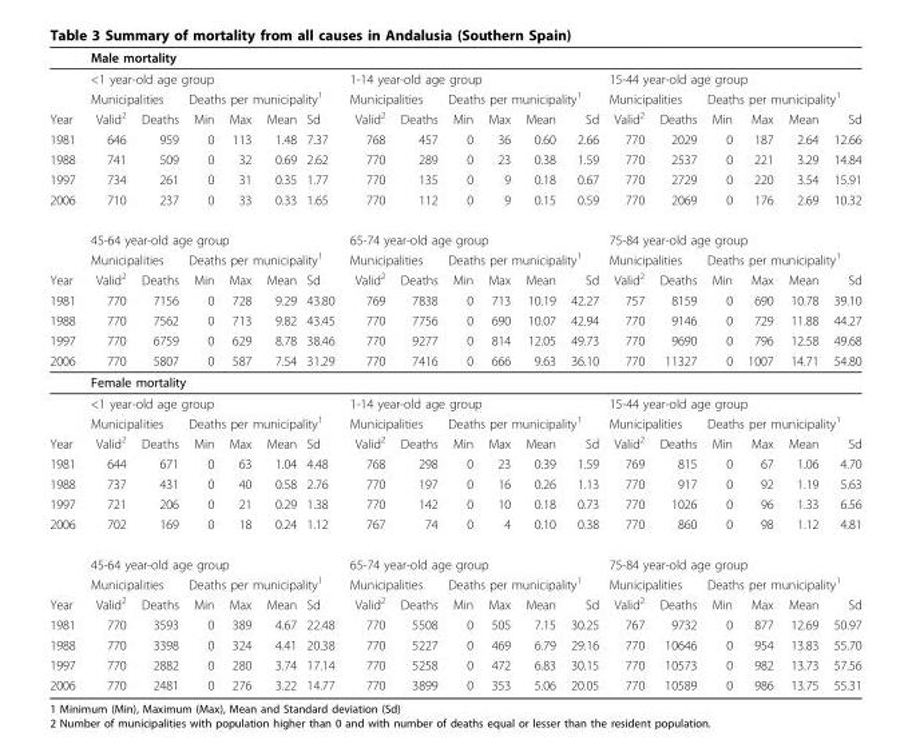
<table><thead><tr><td rowspan="4">Year</td><td colspan="18">Male mortality</td></tr><tr><td colspan="6">&lt;1 year-old age group</td><td colspan="6">1-14 year-old age group</td><td colspan="6">15-44 year-old age group</td></tr><tr><td colspan="2">Municipalities</td><td colspan="4">Deaths per municipality<sup>1</sup></td><td colspan="2">Municipalities</td><td colspan="4">Deaths per municipality<sup>1</sup></td><td colspan="2">Municipalities</td><td colspan="4">Deaths per municipality<sup>1</sup></td></tr><tr><td>Valid<sup>2</sup></td><td>Deaths</td><td>Min</td><td>Max</td><td>Mean</td><td>Sd</td><td>Valid<sup>2</sup></td><td>Deaths</td><td>Min</td><td>Max</td><td>Mean</td><td>Sd</td><td>Valid<sup>2</sup></td><td>Deaths</td><td>Min</td><td>Max</td><td>Mean</td><td>Sd</td></tr></thead><tbody><tr><td>1981</td><td>646</td><td>959</td><td>0</td><td>113</td><td>1.48</td><td>7.37</td><td>768</td><td>457</td><td>0</td><td>36</td><td>0.60</td><td>2.66</td><td>770</td><td>2029</td><td>0</td><td>187</td><td>2.64</td><td>12.66</td></tr><tr><td>1988</td><td>741</td><td>509</td><td>0</td><td>32</td><td>0.69</td><td>2.62</td><td>770</td><td>289</td><td>0</td><td>23</td><td>0.38</td><td>1.59</td><td>770</td><td>2537</td><td>0</td><td>221</td><td>3.29</td><td>14.84</td></tr><tr><td>1997</td><td>734</td><td>261</td><td>0</td><td>31</td><td>0.35</td><td>1.77</td><td>770</td><td>135</td><td>0</td><td>9</td><td>0.18</td><td>0.67</td><td>770</td><td>2729</td><td>0</td><td>220</td><td>3.54</td><td>15.91</td></tr><tr><td rowspan="3">2006</td><td>710</td><td>237</td><td>0</td><td>33</td><td>0.33</td><td>1.65</td><td>770</td><td>112</td><td>0</td><td>9</td><td>0.15</td><td>0.59</td><td>770</td><td>2069</td><td>0</td><td>176</td><td>2.69</td><td>10.32</td></tr><tr><td colspan="6">45-64 year-old age group</td><td colspan="6">65-74 year-old age group</td><td colspan="6">75-84 year-old age group</td></tr><tr><td colspan="2">Municipalities</td><td colspan="4">Deaths per municipality<sup>1</sup></td><td colspan="2">Municipalities</td><td colspan="4">Deaths per municipality<sup>1</sup></td><td colspan="2">Municipalities</td><td colspan="4">Deaths per municipality<sup>1</sup></td></tr><tr><td>Year</td><td>Valid<sup>2</sup></td><td>Deaths</td><td>Min</td><td>Max</td><td>Mean</td><td>Sd</td><td>Valid<sup>2</sup></td><td>Deaths</td><td>Min</td><td>Max</td><td>Mean</td><td>Sd</td><td>Valid<sup>2</sup></td><td>Deaths</td><td>Min</td><td>Max</td><td>Mean</td><td>Sd</td></tr><tr><td>1981</td><td>770</td><td>7156</td><td>0</td><td>728</td><td>9.29</td><td>43.80</td><td>769</td><td>7838</td><td>0</td><td>713</td><td>10.19</td><td>42.27</td><td>757</td><td>8159</td><td>0</td><td>690</td><td>10.78</td><td>39.10</td></tr><tr><td>1988</td><td>770</td><td>7562</td><td>0</td><td>713</td><td>9.82</td><td>43.45</td><td>770</td><td>7756</td><td>0</td><td>690</td><td>10.07</td><td>42.94</td><td>770</td><td>9146</td><td>0</td><td>729</td><td>11.88</td><td>44.27</td></tr><tr><td>1997</td><td>770</td><td>6759</td><td>0</td><td>629</td><td>8.78</td><td>38.46</td><td>770</td><td>9277</td><td>0</td><td>814</td><td>12.05</td><td>49.73</td><td>770</td><td>9690</td><td>0</td><td>796</td><td>12.58</td><td>49.68</td></tr><tr><td rowspan="4">2006</td><td>770</td><td>5807</td><td>0</td><td>587</td><td>7.54</td><td>31.29</td><td>770</td><td>7416</td><td>0</td><td>666</td><td>9.63</td><td>36.10</td><td>770</td><td>11327</td><td>0</td><td>1007</td><td>14.71</td><td>54.80</td></tr><tr><td colspan="18">Female mortality</td></tr><tr><td colspan="6">&lt;1 year-old age group</td><td colspan="6">1-14 year-old age group</td><td colspan="6">15-44 year-old age group</td></tr><tr><td colspan="2">Municipalities</td><td colspan="4">Deaths per municipality<sup>1</sup></td><td colspan="2">Municipalities</td><td colspan="4">Deaths per municipality<sup>1</sup></td><td colspan="2">Municipalities</td><td colspan="4">Deaths per municipality<sup>1</sup></td></tr><tr><td>Year</td><td>Valid<sup>2</sup></td><td>Deaths</td><td>Min</td><td>Max</td><td>Mean</td><td>Sd</td><td>Valid<sup>2</sup></td><td>Deaths</td><td>Min</td><td>Max</td><td>Mean</td><td>Sd</td><td>Valid<sup>2</sup></td><td>Deaths</td><td>Min</td><td>Max</td><td>Mean</td><td>Sd</td></tr><tr><td>1981</td><td>644</td><td>671</td><td>0</td><td>63</td><td>1.04</td><td>4.48</td><td>768</td><td>298</td><td>0</td><td>23</td><td>0.39</td><td>1.59</td><td>769</td><td>815</td><td>0</td><td>67</td><td>1.06</td><td>4.70</td></tr><tr><td>1988</td><td>737</td><td>431</td><td>0</td><td>40</td><td>0.58</td><td>2.76</td><td>770</td><td>197</td><td>0</td><td>16</td><td>0.26</td><td>1.13</td><td>770</td><td>917</td><td>0</td><td>92</td><td>1.19</td><td>5.63</td></tr><tr><td>1997</td><td>721</td><td>206</td><td>0</td><td>21</td><td>0.29</td><td>1.38</td><td>770</td><td>142</td><td>0</td><td>10</td><td>0.18</td><td>0.73</td><td>770</td><td>1026</td><td>0</td><td>96</td><td>1.33</td><td>6.56</td></tr><tr><td rowspan="3">2006</td><td>702</td><td>169</td><td>0</td><td>18</td><td>0.24</td><td>1.12</td><td>767</td><td>74</td><td>0</td><td>4</td><td>0.10</td><td>0.38</td><td>770</td><td>860</td><td>0</td><td>98</td><td>1.12</td><td>4.81</td></tr><tr><td colspan="6">45-64 year-old age group</td><td colspan="6">65-74 year-old age group</td><td colspan="6">75-84 year-old age group</td></tr><tr><td colspan="2">Municipalities</td><td colspan="4">Deaths per municipality<sup>1</sup></td><td colspan="2">Municipalities</td><td colspan="4">Deaths per municipality<sup>1</sup></td><td colspan="2">Municipalities</td><td colspan="4">Deaths per municipality<sup>1</sup></td></tr><tr><td>Year</td><td>Valid<sup>2</sup></td><td>Deaths</td><td>Min</td><td>Max</td><td>Mean</td><td>Sd</td><td>Valid<sup>2</sup></td><td>Deaths</td><td>Min</td><td>Max</td><td>Mean</td><td>Sd</td><td>Valid<sup>2</sup></td><td>Deaths</td><td>Min</td><td>Max</td><td>Mean</td><td>Sd</td></tr><tr><td>1981</td><td>770</td><td>3593</td><td>0</td><td>389</td><td>4.67</td><td>22.48</td><td>770</td><td>5508</td><td>0</td><td>505</td><td>7.15</td><td>30.25</td><td>767</td><td>9732</td><td>0</td><td>877</td><td>12.69</td><td>50.97</td></tr><tr><td>1988</td><td>770</td><td>3398</td><td>0</td><td>324</td><td>4.41</td><td>20.38</td><td>770</td><td>5227</td><td>0</td><td>469</td><td>6.79</td><td>29.16</td><td>770</td><td>10646</td><td>0</td><td>954</td><td>13.83</td><td>55.70</td></tr><tr><td>1997</td><td>770</td><td>2882</td><td>0</td><td>280</td><td>3.74</td><td>17.14</td><td>770</td><td>5258</td><td>0</td><td>472</td><td>6.83</td><td>30.15</td><td>770</td><td>10573</td><td>0</td><td>982</td><td>13.73</td><td>57.56</td></tr><tr><td>2006</td><td>770</td><td>2481</td><td>0</td><td>276</td><td>3.22</td><td>14.77</td><td>770</td><td>3899</td><td>0</td><td>353</td><td>5.06</td><td>20.05</td><td>770</td><td>10589</td><td>0</td><td>986</td><td>13.75</td><td>55.31</td></tr></tbody></table>